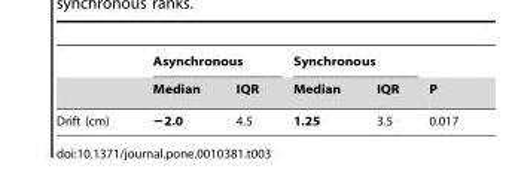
<table><thead><tr><td rowspan="2"></td><td colspan="2">Asynchronous</td><td colspan="2">Synchronous</td><td rowspan="2">P</td></tr><tr><td>Median</td><td>IQR</td><td>Median</td><td>IQR</td></tr></thead><tbody><tr><td>Drift (cm)</td><td>−2.0</td><td>4.5</td><td>1.25</td><td>3.5</td><td>0.017</td></tr></tbody></table>